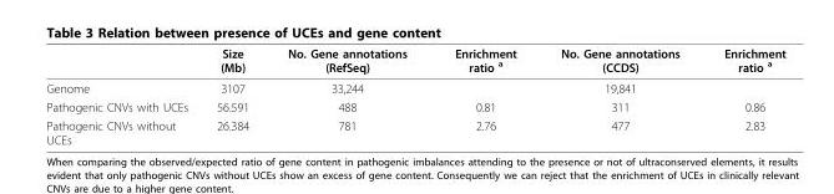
<table><thead><tr><td></td><td>Size (Mb)</td><td>No. Gene annotations (RefSeq)</td><td>Enrichment ratio <sup>a</sup></td><td>No. Gene annotations (CCDS)</td><td>Enrichment ratio <sup>a</sup></td></tr></thead><tbody><tr><td>Genome</td><td>3107</td><td>33,244</td><td></td><td>19,841</td><td></td></tr><tr><td>Pathogenic CNVs with UCEs</td><td>56.591</td><td>488</td><td>0.81</td><td>311</td><td>0.86</td></tr><tr><td>Pathogenic CNVs without UCEs</td><td>26.384</td><td>781</td><td>2.76</td><td>477</td><td>2.83</td></tr></tbody></table>